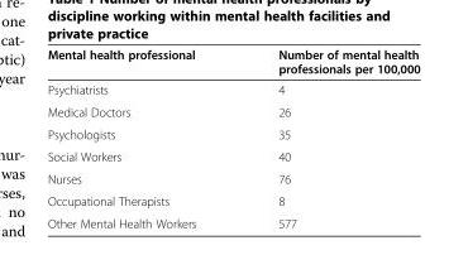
<table><thead><tr><td>Mental health professional</td><td>Number of mental health professionals per 100,000</td></tr></thead><tbody><tr><td>Psychiatrists</td><td>4</td></tr><tr><td>Medical Doctors</td><td>26</td></tr><tr><td>Psychologists</td><td>35</td></tr><tr><td>Social Workers</td><td>40</td></tr><tr><td>Nurses</td><td>76</td></tr><tr><td>Occupational Therapists</td><td>8</td></tr><tr><td>Other Mental Health Workers</td><td>577</td></tr></tbody></table>